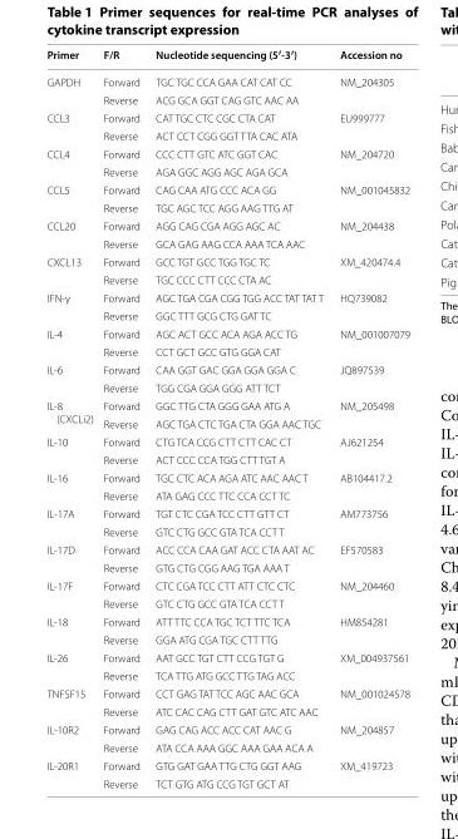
<table><thead><tr><td>Primer</td><td>F/R</td><td>Nucleotide sequencing (5′‑3′)</td><td>Accession no</td></tr></thead><tbody><tr><td rowspan="2">GAPDH</td><td>Forward</td><td>TGC TGC CCA GAA CAT CAT CC</td><td rowspan="2">NM_204305</td></tr><tr><td>Reverse</td><td>ACG GCA GGT CAG GTC AAC AA</td></tr><tr><td rowspan="2">CCL3</td><td>Forward</td><td>CAT TGC CTC CGC CTA CAT</td><td rowspan="2">EU999777</td></tr><tr><td>Reverse</td><td>ACT CCT CGG GGT TTA CAC ATA</td></tr><tr><td rowspan="2">CCL4</td><td>Forward</td><td>CCC CTT GTC ATC GGT CAC</td><td rowspan="2">NM_204720</td></tr><tr><td>Reverse</td><td>AGA GGC AGG AGC AGA GCA</td></tr><tr><td rowspan="2">CCL5</td><td>Forward</td><td>CAG CAA ATG CCC ACA GG</td><td rowspan="2">NM_001045832</td></tr><tr><td>Reverse</td><td>TGC AGC TCC AGG AAG TTG AT</td></tr><tr><td rowspan="2">CCL20</td><td>Forward</td><td>AGG CAG CGA AGG AGC AC</td><td rowspan="2">NM_204438</td></tr><tr><td>Reverse</td><td>GCA GAG AAG CCA AAA TCA AAC</td></tr><tr><td rowspan="2">CXCL13</td><td>Forward</td><td>GCC TGT GCC TGG TGC TC</td><td rowspan="2">XM_420474.4</td></tr><tr><td>Reverse</td><td>TGC CCC CTT CCC CTA AC</td></tr><tr><td rowspan="2">IFN-γ</td><td>Forward</td><td>AGC TGA CGA CGG TGG ACC TAT TAT T</td><td rowspan="2">HQ739082</td></tr><tr><td>Reverse</td><td>GGC TTT GCG CTG GAT TC</td></tr><tr><td rowspan="2">IL-4</td><td>Forward</td><td>AGC ACT GCC ACA AGA ACC TG</td><td rowspan="2">NM_001007079</td></tr><tr><td>Reverse</td><td>CCT GCT GCC GTG GGA CAT</td></tr><tr><td rowspan="2">IL-6</td><td>Forward</td><td>CAA GGT GAC GGA GGA GGA C</td><td rowspan="2">JQ897539</td></tr><tr><td>Reverse</td><td>TGG CGA GGA GGG ATT TCT</td></tr><tr><td rowspan="2">IL-8 (CXCLi2)</td><td>Forward</td><td>GGC TTG CTA GGG GAA ATG A</td><td rowspan="2">NM_205498</td></tr><tr><td>Reverse</td><td>AGC TGA CTC TGA CTA GGA AAC TGC</td></tr><tr><td rowspan="2">IL-10</td><td>Forward</td><td>CTG TCA CCG CTT CTT CAC CT</td><td rowspan="2">AJ621254</td></tr><tr><td>Reverse</td><td>ACT CCC CCA TGG CTT TGT A</td></tr><tr><td rowspan="2">IL-16</td><td>Forward</td><td>TGC CTC ACA AGA ATC AAC AAC T</td><td rowspan="2">AB104417.2</td></tr><tr><td>Reverse</td><td>ATA GAG CCC TTC CCA CCT TC</td></tr><tr><td rowspan="2">IL-17A</td><td>Forward</td><td>TGT CTC CGA TCC CTT GTT CT</td><td rowspan="2">AM773756</td></tr><tr><td>Reverse</td><td>GTC CTG GCC GTA TCA CCT T</td></tr><tr><td rowspan="2">IL-17D</td><td>Forward</td><td>ACC CCA CAA GAT ACC CTA AAT AC</td><td rowspan="2">EF570583</td></tr><tr><td>Reverse</td><td>GTG CTG CGG AAG TGA AAA T</td></tr><tr><td rowspan="2">IL-17F</td><td>Forward</td><td>CTC CGA TCC CTT ATT CTC CTC</td><td rowspan="2">NM_204460</td></tr><tr><td>Reverse</td><td>GTC CTG GCC GTA TCA CCT T</td></tr><tr><td rowspan="2">IL-18</td><td>Forward</td><td>ATT TTC CCA TGC TCT TTC TCA</td><td rowspan="2">HM854281</td></tr><tr><td>Reverse</td><td>GGA ATG CGA TGC CTT TTG</td></tr><tr><td rowspan="2">IL-26</td><td>Forward</td><td>AAT GCC TGT CTT CCG TGT G</td><td rowspan="2">XM_004937561</td></tr><tr><td>Reverse</td><td>TCA TTG ATG GCC TTG TAG ACC</td></tr><tr><td rowspan="2">TNFSF15</td><td>Forward</td><td>CCT GAG TAT TCC AGC AAC GCA</td><td rowspan="2">NM_001024578</td></tr><tr><td>Reverse</td><td>ATC CAC CAG CTT GAT GTC ATC AAC</td></tr><tr><td rowspan="2">IL-10R2</td><td>Forward</td><td>GAG CAG ACC ACC CAT AAC G</td><td rowspan="2">NM_204857</td></tr><tr><td>Reverse</td><td>ATA CCA AAA GGC AAA GAA ACA A</td></tr><tr><td rowspan="2">IL-20R1</td><td>Forward</td><td>GTG GAT GAA TTG CTG GGT AAG</td><td rowspan="2">XM_419723</td></tr><tr><td>Reverse</td><td>TCT GTG ATG CCG TGT GCT AT</td></tr></tbody></table>